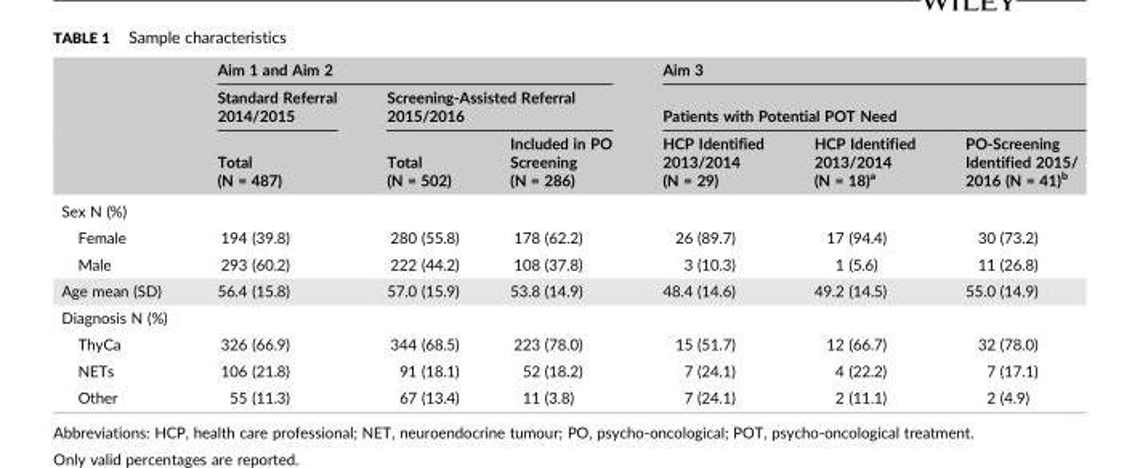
<table><thead><tr><td rowspan="3"></td><td colspan="3">Aim 1 and Aim 2</td><td rowspan="2" colspan="3">Aim 3 Patients with Potential POT Need</td></tr><tr><td rowspan="2">Standard Referral 2014/2015 Total (N = 487)</td><td colspan="2">Screening‐Assisted Referral 2015/2016</td></tr><tr><td>Total (N = 502)</td><td>Included in PO Screening (N = 286)</td><td>HCP Identified 2013/2014 (N = 29)</td><td>HCP Identified 2013/2014 (N = 18)<sup>a</sup></td><td>PO‐Screening Identified 2015/ 2016 (N = 41)<sup>b</sup></td></tr></thead><tbody><tr><td colspan="7">Sex N (%)</td></tr><tr><td>Female</td><td>194 (39.8)</td><td>280 (55.8)</td><td>178 (62.2)</td><td>26 (89.7)</td><td>17 (94.4)</td><td>30 (73.2)</td></tr><tr><td>Male</td><td>293 (60.2)</td><td>222 (44.2)</td><td>108 (37.8)</td><td>3 (10.3)</td><td>1 (5.6)</td><td>11 (26.8)</td></tr><tr><td>Age mean (SD)</td><td>56.4 (15.8)</td><td>57.0 (15.9)</td><td>53.8 (14.9)</td><td>48.4 (14.6)</td><td>49.2 (14.5)</td><td>55.0 (14.9)</td></tr><tr><td colspan="7">Diagnosis N (%)</td></tr><tr><td>ThyCa</td><td>326 (66.9)</td><td>344 (68.5)</td><td>223 (78.0)</td><td>15 (51.7)</td><td>12 (66.7)</td><td>32 (78.0)</td></tr><tr><td>NETs</td><td>106 (21.8)</td><td>91 (18.1)</td><td>52 (18.2)</td><td>7 (24.1)</td><td>4 (22.2)</td><td>7 (17.1)</td></tr><tr><td>Other</td><td>55 (11.3)</td><td>67 (13.4)</td><td>11 (3.8)</td><td>7 (24.1)</td><td>2 (11.1)</td><td>2 (4.9)</td></tr></tbody></table>